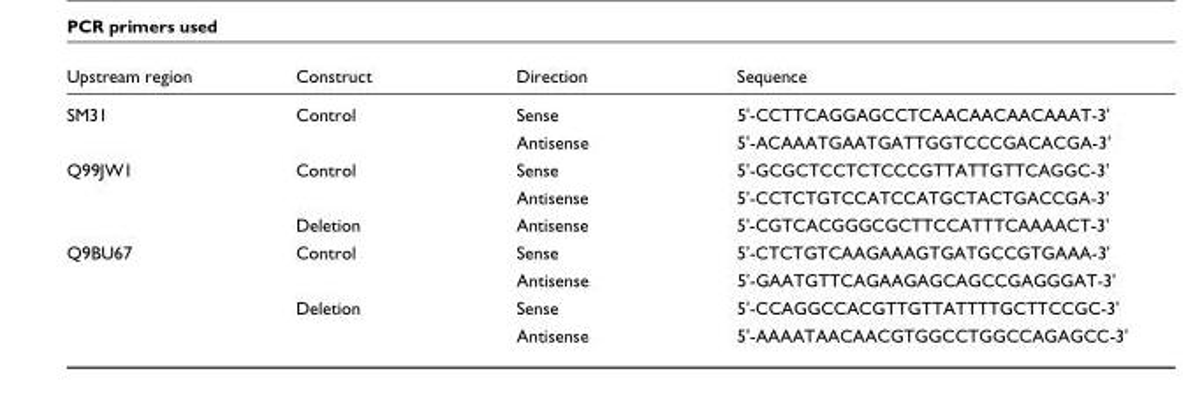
<table><thead><tr><td>Upstream region</td><td>Construct</td><td>Direction</td><td>Sequence</td></tr></thead><tbody><tr><td rowspan="2">SM31</td><td>Control</td><td>Sense</td><td>5&#x27;-CCTTCAGGAGCCTCAACAACAACAAAT-3&#x27;</td></tr><tr><td></td><td>Antisense</td><td>5&#x27;-ACAAATGAATGATTGGTCCCGACACGA-3&#x27;</td></tr><tr><td rowspan="3">Q99JW1</td><td>Control</td><td>Sense</td><td>5&#x27;-GCGCTCCTCTCCCGTTATTGTTCAGGC-3&#x27;</td></tr><tr><td></td><td>Antisense</td><td>5&#x27;-CCTCTGTCCATCCATGCTACTGACCGA-3&#x27;</td></tr><tr><td>Deletion</td><td>Antisense</td><td>5&#x27;-CGTCACGGGCGCTTCCATTTCAAAACT-3&#x27;</td></tr><tr><td rowspan="4">Q9BU67</td><td>Control</td><td>Sense</td><td>5&#x27;-CTCTGTCAAGAAAGTGATGCCGTGAAA-3&#x27;</td></tr><tr><td></td><td>Antisense</td><td>5&#x27;-GAATGTTCAGAAGAGCAGCCGAGGGAT-3&#x27;</td></tr><tr><td>Deletion</td><td>Sense</td><td>5&#x27;-CCAGGCCACGTTGTTATTTTGCTTCCGC-3&#x27;</td></tr><tr><td></td><td>Antisense</td><td>5&#x27;-AAAATAACAACGTGGCCTGGCCAGAGCC-3&#x27;</td></tr></tbody></table>